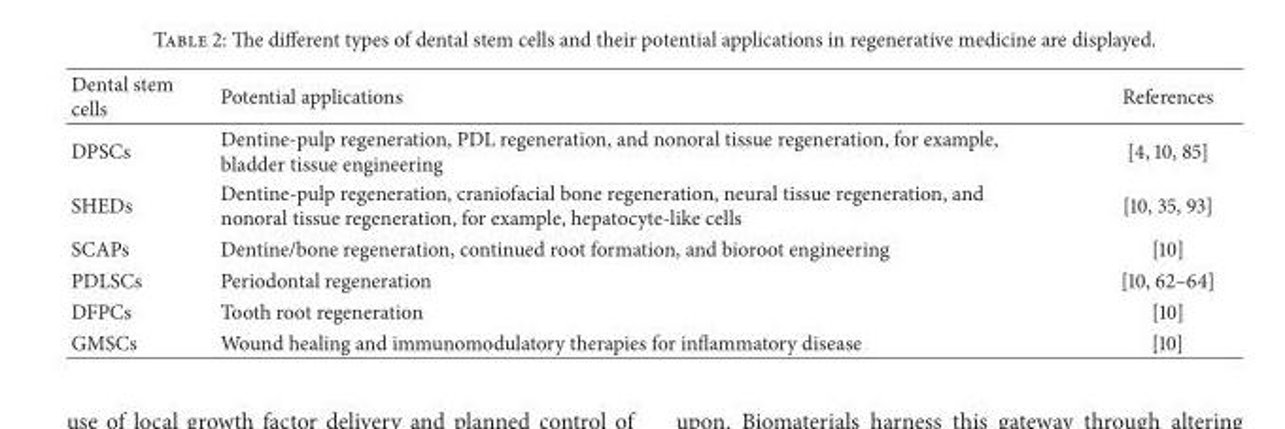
<table><thead><tr><td>Dental stem cells</td><td>Potential applications</td><td>References</td></tr></thead><tbody><tr><td>DPSCs</td><td>Dentine-pulp regeneration, PDL regeneration, and nonoral tissue regeneration, for example, bladder tissue engineering</td><td>[4, 10, 85]</td></tr><tr><td>SHEDs</td><td>Dentine-pulp regeneration, craniofacial bone regeneration, neural tissue regeneration, and nonoral tissue regeneration, for example, hepatocyte-like cells</td><td>[10, 35, 93]</td></tr><tr><td>SCAPs</td><td>Dentine/bone regeneration, continued root formation, and bioroot engineering</td><td>[10]</td></tr><tr><td>PDLSCs</td><td>Periodontal regeneration</td><td>[10, 62–64]</td></tr><tr><td>DFPCs</td><td>Tooth root regeneration</td><td>[10]</td></tr><tr><td>GMSCs</td><td>Wound healing and immunomodulatory therapies for inflammatory disease</td><td>[10]</td></tr></tbody></table>